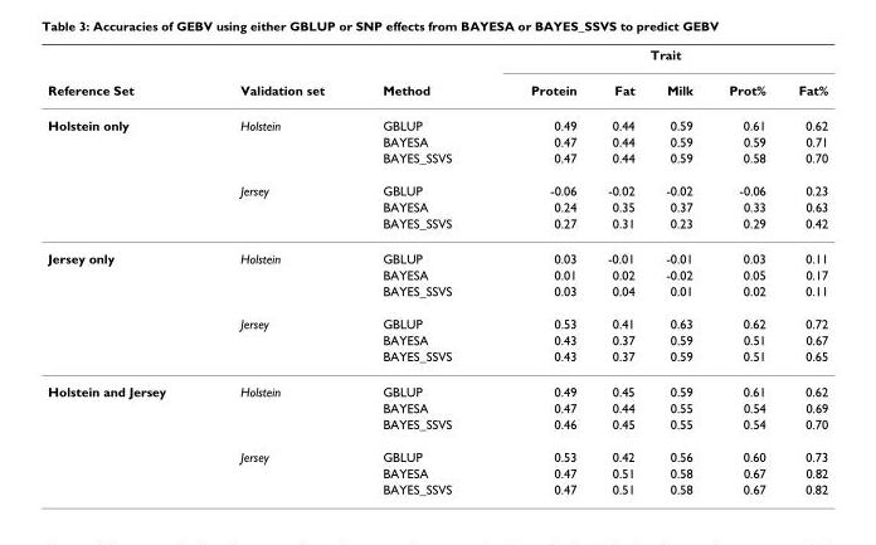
<table><thead><tr><td rowspan="2">Reference Set</td><td rowspan="2">Validation set</td><td rowspan="2">Method</td><td colspan="5">Trait</td></tr><tr><td>Protein</td><td>Fat</td><td>Milk</td><td>Prot%</td><td>Fat%</td></tr></thead><tbody><tr><td rowspan="6">Holstein only</td><td>Holstein</td><td>GBLUP</td><td>0.49</td><td>0.44</td><td>0.59</td><td>0.61</td><td>0.62</td></tr><tr><td></td><td>BAYESA</td><td>0.47</td><td>0.44</td><td>0.59</td><td>0.59</td><td>0.71</td></tr><tr><td></td><td>BAYES_SSVS</td><td>0.47</td><td>0.44</td><td>0.59</td><td>0.58</td><td>0.70</td></tr><tr><td>Jersey</td><td>GBLUP</td><td>-0.06</td><td>-0.02</td><td>-0.02</td><td>-0.06</td><td>0.23</td></tr><tr><td></td><td>BAYESA</td><td>0.24</td><td>0.35</td><td>0.37</td><td>0.33</td><td>0.63</td></tr><tr><td></td><td>BAYES_SSVS</td><td>0.27</td><td>0.31</td><td>0.23</td><td>0.29</td><td>0.42</td></tr><tr><td rowspan="6">Jersey only</td><td>Holstein</td><td>GBLUP</td><td>0.03</td><td>-0.01</td><td>-0.01</td><td>0.03</td><td>0.11</td></tr><tr><td></td><td>BAYESA</td><td>0.01</td><td>0.02</td><td>-0.02</td><td>0.05</td><td>0.17</td></tr><tr><td></td><td>BAYES_SSVS</td><td>0.03</td><td>0.04</td><td>0.01</td><td>0.02</td><td>0.11</td></tr><tr><td>Jersey</td><td>GBLUP</td><td>0.53</td><td>0.41</td><td>0.63</td><td>0.62</td><td>0.72</td></tr><tr><td></td><td>BAYESA</td><td>0.43</td><td>0.37</td><td>0.59</td><td>0.51</td><td>0.67</td></tr><tr><td></td><td>BAYES_SSVS</td><td>0.43</td><td>0.37</td><td>0.59</td><td>0.51</td><td>0.65</td></tr><tr><td rowspan="6">Holstein and Jersey</td><td>Holstein</td><td>GBLUP</td><td>0.49</td><td>0.45</td><td>0.59</td><td>0.61</td><td>0.62</td></tr><tr><td></td><td>BAYESA</td><td>0.47</td><td>0.44</td><td>0.55</td><td>0.54</td><td>0.69</td></tr><tr><td></td><td>BAYES_SSVS</td><td>0.46</td><td>0.45</td><td>0.55</td><td>0.54</td><td>0.70</td></tr><tr><td>Jersey</td><td>GBLUP</td><td>0.53</td><td>0.42</td><td>0.56</td><td>0.60</td><td>0.73</td></tr><tr><td></td><td>BAYESA</td><td>0.47</td><td>0.51</td><td>0.58</td><td>0.67</td><td>0.82</td></tr><tr><td></td><td>BAYES_SSVS</td><td>0.47</td><td>0.51</td><td>0.58</td><td>0.67</td><td>0.82</td></tr></tbody></table>